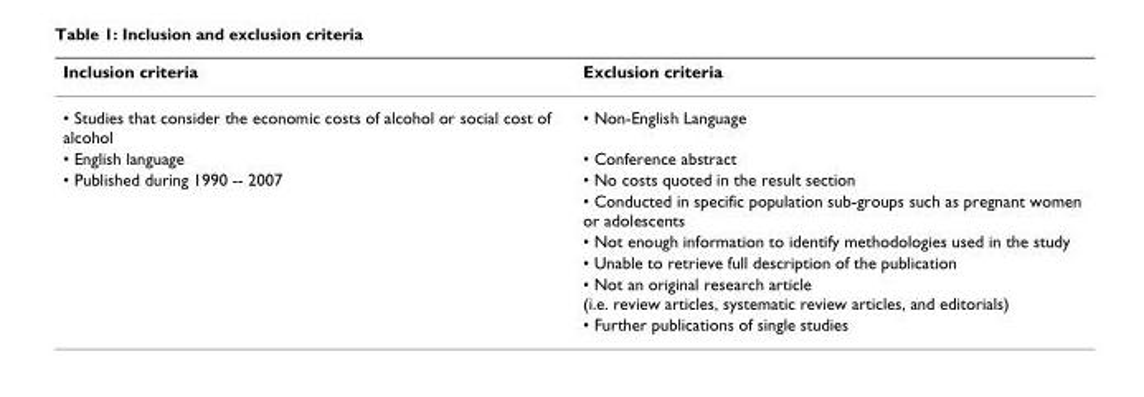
<table><thead><tr><td>Inclusion criteria</td><td>Exclusion criteria</td></tr></thead><tbody><tr><td>• Studies that consider the economic costs of alcohol or social cost of alcohol</td><td>• Non-English Language</td></tr><tr><td>• English language</td><td>• Conference abstract</td></tr><tr><td rowspan="6">• Published during 1990 -- 2007</td><td>• No costs quoted in the result section</td></tr><tr><td>• Conducted in specific population sub-groups such as pregnant women or adolescents</td></tr><tr><td>• Not enough information to identify methodologies used in the study</td></tr><tr><td>• Unable to retrieve full description of the publication</td></tr><tr><td>• Not an original research article (i.e. review articles, systematic review articles, and editorials)</td></tr><tr><td>• Further publications of single studies</td></tr></tbody></table>